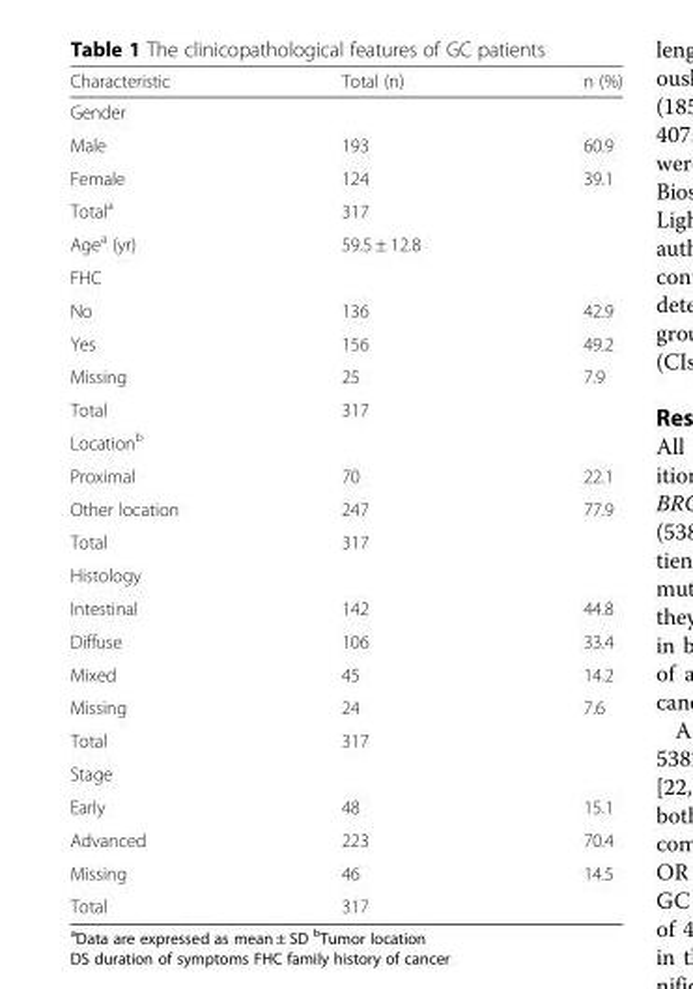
<table><thead><tr><td>Characteristic</td><td>Total (n)</td><td>n (%)</td></tr></thead><tbody><tr><td colspan="3">Gender</td></tr><tr><td>Male</td><td>193</td><td>60.9</td></tr><tr><td>Female</td><td>124</td><td>39.1</td></tr><tr><td>Total<sup>a</sup></td><td>317</td><td></td></tr><tr><td>Age<sup>a</sup> (yr)</td><td>59.5 ± 12.8</td><td></td></tr><tr><td colspan="3">FHC</td></tr><tr><td>No</td><td>136</td><td>42.9</td></tr><tr><td>Yes</td><td>156</td><td>49.2</td></tr><tr><td>Missing</td><td>25</td><td>7.9</td></tr><tr><td>Total</td><td>317</td><td></td></tr><tr><td colspan="3">Location<sup>b</sup></td></tr><tr><td>Proximal</td><td>70</td><td>22.1</td></tr><tr><td>Other location</td><td>247</td><td>77.9</td></tr><tr><td>Total</td><td>317</td><td></td></tr><tr><td colspan="3">Histology</td></tr><tr><td>Intestinal</td><td>142</td><td>44.8</td></tr><tr><td>Diffuse</td><td>106</td><td>33.4</td></tr><tr><td>Mixed</td><td>45</td><td>14.2</td></tr><tr><td>Missing</td><td>24</td><td>7.6</td></tr><tr><td>Total</td><td>317</td><td></td></tr><tr><td colspan="3">Stage</td></tr><tr><td>Early</td><td>48</td><td>15.1</td></tr><tr><td>Advanced</td><td>223</td><td>70.4</td></tr><tr><td>Missing</td><td>46</td><td>14.5</td></tr><tr><td>Total</td><td>317</td><td></td></tr></tbody></table>